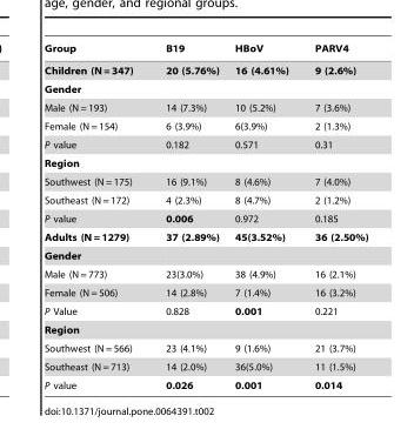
<table><thead><tr><td>Group</td><td>B19</td><td>HBoV</td><td>PARV4</td></tr></thead><tbody><tr><td>Children (N = 347)</td><td>20 (5.76%)</td><td>16 (4.61%)</td><td>9 (2.6%)</td></tr><tr><td colspan="4">Gender</td></tr><tr><td>Male (N = 193)</td><td>14 (7.3%)</td><td>10 (5.2%)</td><td>7 (3.6%)</td></tr><tr><td>Female (N = 154)</td><td>6 (3.9%)</td><td>6(3.9%)</td><td>2 (1.3%)</td></tr><tr><td>P value</td><td>0.182</td><td>0.571</td><td>0.31</td></tr><tr><td colspan="4">Region</td></tr><tr><td>Southwest (N = 175)</td><td>16 (9.1%)</td><td>8 (4.6%)</td><td>7 (4.0%)</td></tr><tr><td>Southeast (N = 172)</td><td>4 (2.3%)</td><td>8 (4.7%)</td><td>2 (1.2%)</td></tr><tr><td>P value</td><td>0.006</td><td>0.972</td><td>0.185</td></tr><tr><td>Adults (N = 1279)</td><td>37 (2.89%)</td><td>45(3.52%)</td><td>36 (2.50%)</td></tr><tr><td colspan="4">Gender</td></tr><tr><td>Male (N = 773)</td><td>23(3.0%)</td><td>38 (4.9%)</td><td>16 (2.1%)</td></tr><tr><td>Female (N = 506)</td><td>14 (2.8%)</td><td>7 (1.4%)</td><td>16 (3.2%)</td></tr><tr><td>P Value</td><td>0.828</td><td>0.001</td><td>0.221</td></tr><tr><td colspan="4">Region</td></tr><tr><td>Southwest (N = 566)</td><td>23 (4.1%)</td><td>9 (1.6%)</td><td>21 (3.7%)</td></tr><tr><td>Southeast (N = 713)</td><td>14 (2.0%)</td><td>36(5.0%)</td><td>11 (1.5%)</td></tr><tr><td>P value</td><td>0.026</td><td>0.001</td><td>0.014</td></tr></tbody></table>